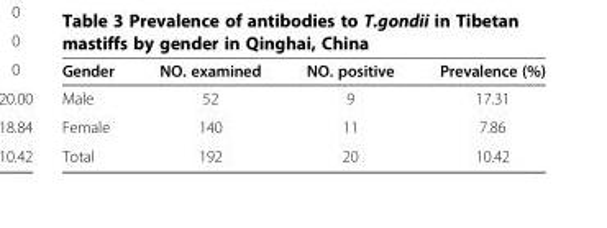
<table><thead><tr><td>Gender</td><td>NO. examined</td><td>NO. positive</td><td>Prevalence (%)</td></tr></thead><tbody><tr><td>Male</td><td>52</td><td>9</td><td>17.31</td></tr><tr><td>Female</td><td>140</td><td>11</td><td>7.86</td></tr><tr><td>Total</td><td>192</td><td>20</td><td>10.42</td></tr></tbody></table>